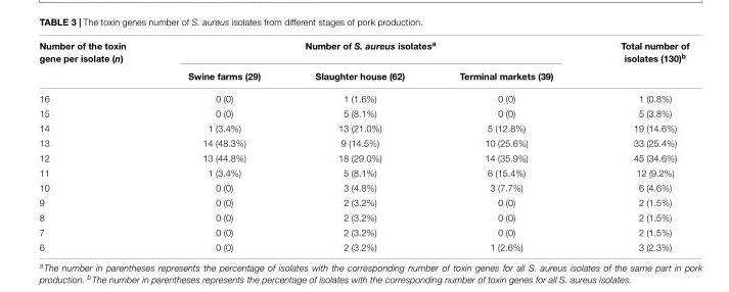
<table><thead><tr><td rowspan="2">Number of the toxin gene per isolate (n)</td><td colspan="3">Number of S. aureus isolates<sup>a</sup></td><td rowspan="2">Total number of isolates (130)<sup>b</sup></td></tr><tr><td>Swine farms (29)</td><td>Slaughter house (62)</td><td>Terminal markets (39)</td></tr></thead><tbody><tr><td>16</td><td>0 (0)</td><td>1 (1.6%)</td><td>0 (0)</td><td>1 (0.8%)</td></tr><tr><td>15</td><td>0 (0)</td><td>5 (8.1%)</td><td>0 (0)</td><td>5 (3.8%)</td></tr><tr><td>14</td><td>1 (3.4%)</td><td>13 (21.0%)</td><td>5 (12.8%)</td><td>19 (14.6%)</td></tr><tr><td>13</td><td>14 (48.3%)</td><td>9 (14.5%)</td><td>10 (25.6%)</td><td>33 (25.4%)</td></tr><tr><td>12</td><td>13 (44.8%)</td><td>18 (29.0%)</td><td>14 (35.9%)</td><td>45 (34.6%)</td></tr><tr><td>11</td><td>1 (3.4%)</td><td>5 (8.1%)</td><td>6 (15.4%)</td><td>12 (9.2%)</td></tr><tr><td>10</td><td>0 (0)</td><td>3 (4.8%)</td><td>3 (7.7%)</td><td>6 (4.6%)</td></tr><tr><td>9</td><td>0 (0)</td><td>2 (3.2%)</td><td>0 (0)</td><td>2 (1.5%)</td></tr><tr><td>8</td><td>0 (0)</td><td>2 (3.2%)</td><td>0 (0)</td><td>2 (1.5%)</td></tr><tr><td>7</td><td>0 (0)</td><td>2 (3.2%)</td><td>0 (0)</td><td>2 (1.5%)</td></tr><tr><td>6</td><td>0 (0)</td><td>2 (3.2%)</td><td>1 (2.6%)</td><td>3 (2.3%)</td></tr></tbody></table>